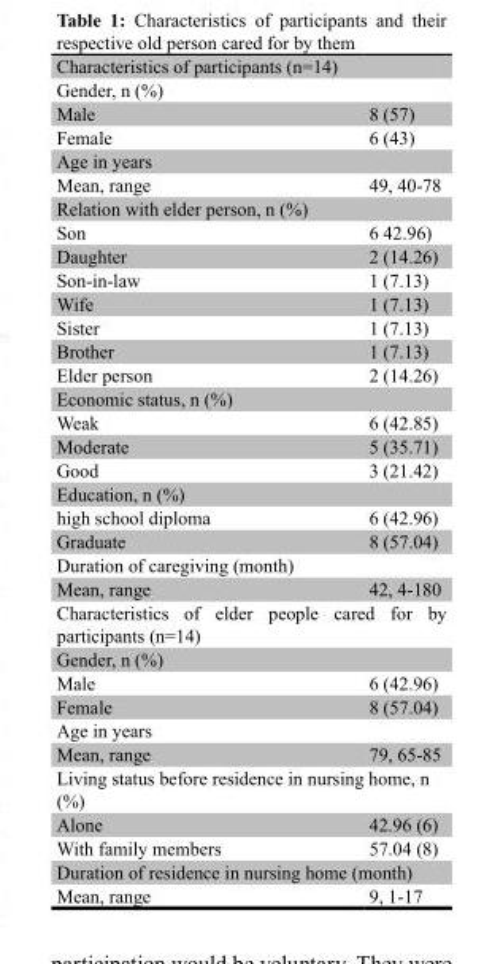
<table><thead><tr><td colspan="2">Characteristics of participants (n=14)</td></tr><tr><td>Gender, n (%)</td><td></td></tr></thead><tbody><tr><td>Male</td><td>8 (57)</td></tr><tr><td>Female</td><td>6 (43)</td></tr><tr><td colspan="2">Age in years</td></tr><tr><td>Mean, range</td><td>49, 40-78</td></tr><tr><td colspan="2">Relation with elder person, n (%)</td></tr><tr><td>Son</td><td>6 42.96)</td></tr><tr><td>Daughter</td><td>2 (14.26)</td></tr><tr><td>Son-in-law</td><td>1 (7.13)</td></tr><tr><td>Wife</td><td>1 (7.13)</td></tr><tr><td>Sister</td><td>1 (7.13)</td></tr><tr><td>Brother</td><td>1 (7.13)</td></tr><tr><td>Elder person</td><td>2 (14.26)</td></tr><tr><td colspan="2">Economic status, n (%)</td></tr><tr><td>Weak</td><td>6 (42.85)</td></tr><tr><td>Moderate</td><td>5 (35.71)</td></tr><tr><td>Good</td><td>3 (21.42)</td></tr><tr><td colspan="2">Education, n (%)</td></tr><tr><td>high school diploma</td><td>6 (42.96)</td></tr><tr><td>Graduate</td><td>8 (57.04)</td></tr><tr><td colspan="2">Duration of caregiving (month)</td></tr><tr><td>Mean, range</td><td>42, 4-180</td></tr><tr><td colspan="2">Characteristics of elder people cared for by participants (n=14)</td></tr><tr><td colspan="2">Gender, n (%)</td></tr><tr><td>Male</td><td>6 (42.96)</td></tr><tr><td>Female</td><td>8 (57.04)</td></tr><tr><td colspan="2">Age in years</td></tr><tr><td>Mean, range</td><td>79, 65-85</td></tr><tr><td colspan="2">Living status before residence in nursing home, n (%)</td></tr><tr><td>Alone</td><td>42.96 (6)</td></tr><tr><td>With family members</td><td>57.04 (8)</td></tr><tr><td colspan="2">Duration of residence in nursing home (month)</td></tr><tr><td>Mean, range</td><td>9, 1-17</td></tr></tbody></table>